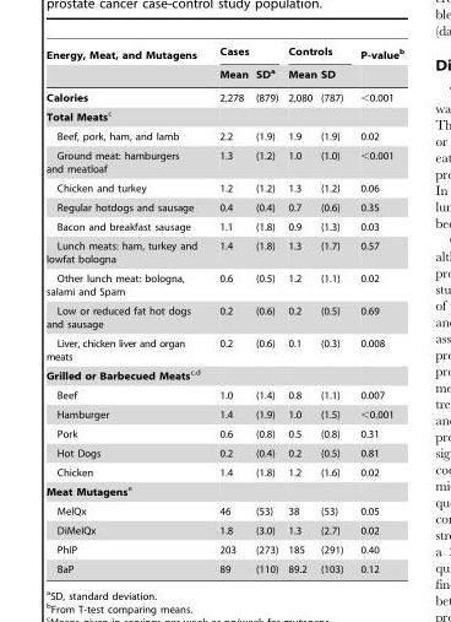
<table><thead><tr><td rowspan="2">Energy, Meat, and Mutagens</td><td colspan="2">Cases</td><td colspan="2">Controls</td><td rowspan="2">P-value<sup>b</sup></td></tr><tr><td>Mean</td><td>SD<sup>a</sup></td><td>Mean</td><td>SD</td></tr></thead><tbody><tr><td>Calories</td><td>2,278</td><td>(879)</td><td>2,080</td><td>(787)</td><td>&lt;0.001</td></tr><tr><td colspan="6">Total Meatsc</td></tr><tr><td>Beef, pork, ham, and lamb</td><td>2.2</td><td>(1.9)</td><td>1.9</td><td>(1.9)</td><td>0.02</td></tr><tr><td>Ground meat: hamburgers and meatloaf</td><td>1.3</td><td>(1.2)</td><td>1.0</td><td>(1.0)</td><td>&lt;0.001</td></tr><tr><td>Chicken and turkey</td><td>1.2</td><td>(1.2)</td><td>1.3</td><td>(1.2)</td><td>0.06</td></tr><tr><td>Regular hotdogs and sausage</td><td>0.4</td><td>(0.4)</td><td>0.7</td><td>(0.6)</td><td>0.35</td></tr><tr><td>Bacon and breakfast sausage</td><td>1.1</td><td>(1.8)</td><td>0.9</td><td>(1.3)</td><td>0.03</td></tr><tr><td>Lunch meats: ham, turkey and lowfat bologna</td><td>1.4</td><td>(1.8)</td><td>1.3</td><td>(1.7)</td><td>0.57</td></tr><tr><td>Other lunch meat: bologna, salami and Spam</td><td>0.6</td><td>(0.5)</td><td>1.2</td><td>(1.1)</td><td>0.02</td></tr><tr><td>Low or reduced fat hot dogs and sausage</td><td>0.2</td><td>(0.6)</td><td>0.2</td><td>(0.5)</td><td>0.69</td></tr><tr><td>Liver, chicken liver and organ meats</td><td>0.2</td><td>(0.6)</td><td>0.1</td><td>(0.3)</td><td>0.008</td></tr><tr><td colspan="6">Grilled or Barbecued Meatsc<sup>,</sup>d</td></tr><tr><td>Beef</td><td>1.0</td><td>(1.4)</td><td>0.8</td><td>(1.1)</td><td>0.007</td></tr><tr><td>Hamburger</td><td>1.4</td><td>(1.9)</td><td>1.0</td><td>(1.5)</td><td>&lt;0.001</td></tr><tr><td>Pork</td><td>0.6</td><td>(0.8)</td><td>0.5</td><td>(0.8)</td><td>0.31</td></tr><tr><td>Hot Dogs</td><td>0.2</td><td>(0.4)</td><td>0.2</td><td>(0.5)</td><td>0.81</td></tr><tr><td>Chicken</td><td>1.4</td><td>(1.8)</td><td>1.2</td><td>(1.6)</td><td>0.02</td></tr><tr><td colspan="6">Meat Mutagense</td></tr><tr><td>MelQx</td><td>46</td><td>(53)</td><td>38</td><td>(53)</td><td>0.05</td></tr><tr><td>DiMeIQx</td><td>1.8</td><td>(3.0)</td><td>1.3</td><td>(2.7)</td><td>0.02</td></tr><tr><td>PhIP</td><td>203</td><td>(273)</td><td>185</td><td>(291)</td><td>0.40</td></tr><tr><td>BaP</td><td>89</td><td>(110)</td><td>89.2</td><td>(103)</td><td>0.12</td></tr></tbody></table>